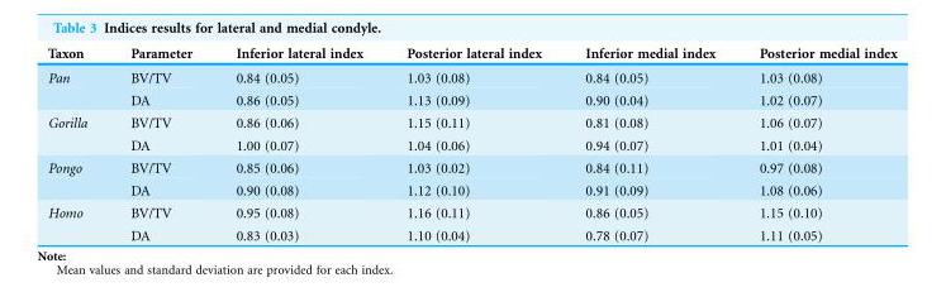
<table><thead><tr><td>Taxon</td><td>Parameter</td><td>Inferior lateral index</td><td>Posterior lateral index</td><td>Inferior medial index</td><td>Posterior medial index</td></tr></thead><tbody><tr><td rowspan="2">Pan</td><td>BV/TV</td><td>0.84 (0.05)</td><td>1.03 (0.08)</td><td>0.84 (0.05)</td><td>1.03 (0.08)</td></tr><tr><td>DA</td><td>0.86 (0.05)</td><td>1.13 (0.09)</td><td>0.90 (0.04)</td><td>1.02 (0.07)</td></tr><tr><td rowspan="2">Gorilla</td><td>BV/TV</td><td>0.86 (0.06)</td><td>1.15 (0.11)</td><td>0.81 (0.08)</td><td>1.06 (0.07)</td></tr><tr><td>DA</td><td>1.00 (0.07)</td><td>1.04 (0.06)</td><td>0.94 (0.07)</td><td>1.01 (0.04)</td></tr><tr><td rowspan="2">Pongo</td><td>BV/TV</td><td>0.85 (0.06)</td><td>1.03 (0.02)</td><td>0.84 (0.11)</td><td>0.97 (0.08)</td></tr><tr><td>DA</td><td>0.90 (0.08)</td><td>1.12 (0.10)</td><td>0.91 (0.09)</td><td>1.08 (0.06)</td></tr><tr><td rowspan="2">Homo</td><td>BV/TV</td><td>0.95 (0.08)</td><td>1.16 (0.11)</td><td>0.86 (0.05)</td><td>1.15 (0.10)</td></tr><tr><td>DA</td><td>0.83 (0.03)</td><td>1.10 (0.04)</td><td>0.78 (0.07)</td><td>1.11 (0.05)</td></tr></tbody></table>